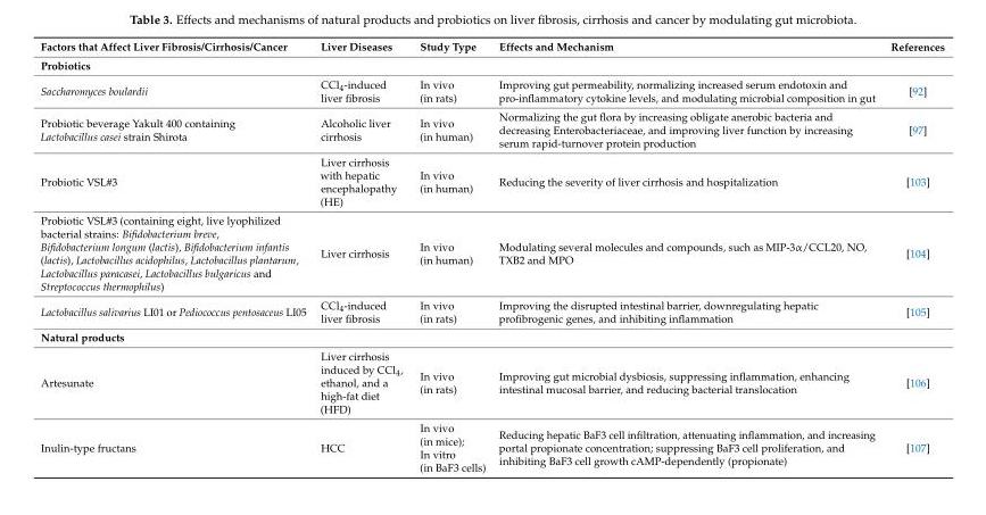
<table><thead><tr><td>Factors that Affect Liver Fibrosis/Cirrhosis/Cancer</td><td>Liver Diseases</td><td>Study Type</td><td>Effects and Mechanism</td><td>References</td></tr></thead><tbody><tr><td colspan="5">Probiotics</td></tr><tr><td>Saccharomyces boulardii</td><td>CCl<sub>4</sub>-induced liver fibrosis</td><td>In vivo (in rats)</td><td>Improving gut permeability, normalizing increased serum endotoxin and pro-inflammatory cytokine levels, and modulating microbial composition in gut</td><td>[92]</td></tr><tr><td>Probiotic beverage Yakult 400 containing Lactobacillus casei strain Shirota</td><td>Alcoholic liver cirrhosis</td><td>In vivo (in human)</td><td>Normalizing the gut flora by increasing obligate anerobic bacteria and decreasing Enterobacteriaceae, and improving liver function by increasing serum rapid-turnover protein production</td><td>[97]</td></tr><tr><td>Probiotic VSL#3</td><td>Liver cirrhosis with hepatic encephalopathy (HE)</td><td>In vivo (in human)</td><td>Reducing the severity of liver cirrhosis and hospitalization</td><td>[103]</td></tr><tr><td>Probiotic VSL#3 (containing eight, live lyophilized bacterial strains: Bifidobacterium breve, Bifidobacterium longum (lactis), Bifidobacterium infantis (lactis), Lactobacillus acidophilus, Lactobacillus plantarum, Lactobacillus paracasei, Lactobacillus bulgaricus and Streptococcus thermophilus)</td><td>Liver cirrhosis</td><td>In vivo (in human)</td><td>Modulating several molecules and compounds, such as MIP-3α/CCL20, NO, TXB2 and MPO</td><td>[104]</td></tr><tr><td>Lactobacillus salivarius LI01 or Pediococcus pentosaceus LI05</td><td>CCl<sub>4</sub>-induced liver fibrosis</td><td>In vivo (in rats)</td><td>Improving the disrupted intestinal barrier, downregulating hepatic profibrogenic genes, and inhibiting inflammation</td><td>[105]</td></tr><tr><td colspan="5">Natural products</td></tr><tr><td>Artesunate</td><td>Liver cirrhosis induced by CCl<sub>4</sub>, ethanol, and a high-fat diet (HFD)</td><td>In vivo (in rats)</td><td>Improving gut microbial dysbiosis, suppressing inflammation, enhancing intestinal mucosal barrier, and reducing bacterial translocation</td><td>[106]</td></tr><tr><td>Inulin-type fructans</td><td>HCC</td><td>In vivo (in mice); In vitro (in BaF3 cells)</td><td>Reducing hepatic BaF3 cell infiltration, attenuating inflammation, and increasing portal propionate concentration; suppressing BaF3 cell proliferation, and inhibiting BaF3 cell growth cAMP-dependently (propionate)</td><td>[107]</td></tr></tbody></table>